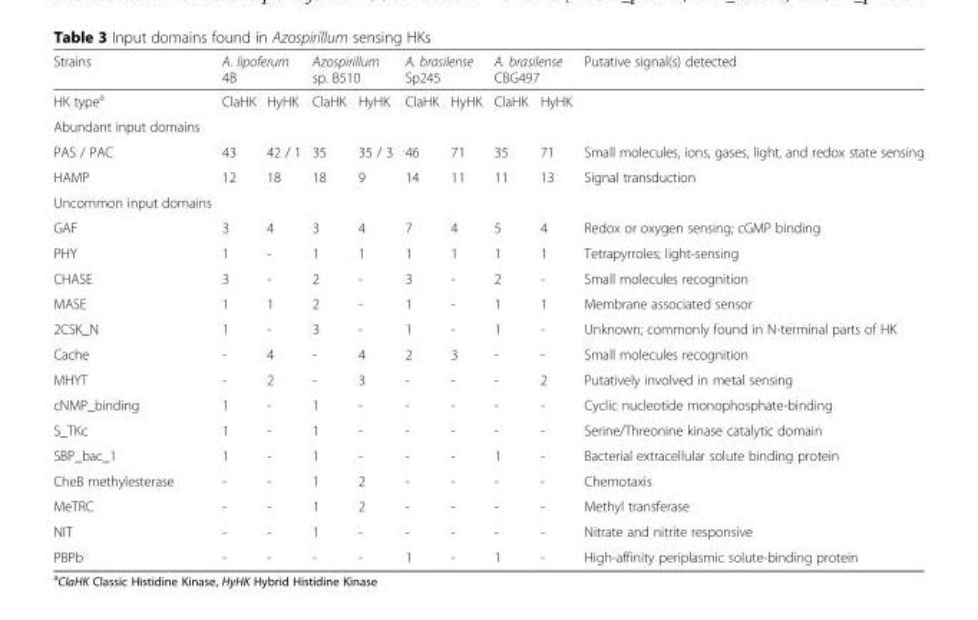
<table><thead><tr><td rowspan="2">Strains HK type<sup>a</sup></td><td colspan="2">A. lipoferum 4B</td><td colspan="2">Azospirillum sp. B510</td><td colspan="2">A. brasilense Sp245</td><td colspan="2">A. brasilense CBG497</td><td rowspan="2">Putative signal(s) detected</td></tr><tr><td>ClaHK</td><td>HyHK</td><td>ClaHK</td><td>HyHK</td><td>ClaHK</td><td>HyHK</td><td>ClaHK</td><td>HyHK</td></tr></thead><tbody><tr><td colspan="10">Abundant input domains</td></tr><tr><td>PAS / PAC</td><td>43</td><td>42 / 1</td><td>35</td><td>35 / 3</td><td>46</td><td>71</td><td>35</td><td>71</td><td>Small molecules, ions, gases, light, and redox state sensing</td></tr><tr><td>HAMP</td><td>12</td><td>18</td><td>18</td><td>9</td><td>14</td><td>11</td><td>11</td><td>13</td><td>Signal transduction</td></tr><tr><td colspan="10">Uncommon input domains</td></tr><tr><td>GAF</td><td>3</td><td>4</td><td>3</td><td>4</td><td>7</td><td>4</td><td>5</td><td>4</td><td>Redox or oxygen sensing; cGMP binding</td></tr><tr><td>PHY</td><td>1</td><td>-</td><td>1</td><td>1</td><td>1</td><td>1</td><td>1</td><td>1</td><td>Tetrapyrroles; light-sensing</td></tr><tr><td>CHASE</td><td>3</td><td>-</td><td>2</td><td>-</td><td>3</td><td>-</td><td>2</td><td>-</td><td>Small molecules recognition</td></tr><tr><td>MASE</td><td>1</td><td>1</td><td>2</td><td>-</td><td>1</td><td>-</td><td>1</td><td>1</td><td>Membrane associated sensor</td></tr><tr><td>2CSK_N</td><td>1</td><td>-</td><td>3</td><td>-</td><td>1</td><td>-</td><td>1</td><td>-</td><td>Unknown; commonly found in N-terminal parts of HK</td></tr><tr><td>Cache</td><td>-</td><td>4</td><td>-</td><td>4</td><td>2</td><td>3</td><td>-</td><td>-</td><td>Small molecules recognition</td></tr><tr><td>MHYT</td><td>-</td><td>2</td><td>-</td><td>3</td><td>-</td><td>-</td><td>-</td><td>2</td><td>Putatively involved in metal sensing</td></tr><tr><td>cNMP_binding</td><td>1</td><td>-</td><td>1</td><td>-</td><td>-</td><td>-</td><td>-</td><td>-</td><td>Cyclic nucleotide monophosphate-binding</td></tr><tr><td>S_TKc</td><td>1</td><td>-</td><td>1</td><td>-</td><td>-</td><td>-</td><td>-</td><td>-</td><td>Serine/Threonine kinase catalytic domain</td></tr><tr><td>SBP_bac_1</td><td>1</td><td>-</td><td>1</td><td>-</td><td>-</td><td>-</td><td>1</td><td>-</td><td>Bacterial extracellular solute binding protein</td></tr><tr><td>CheB methylesterase</td><td>-</td><td>-</td><td>1</td><td>2</td><td>-</td><td>-</td><td>-</td><td>-</td><td>Chemotaxis</td></tr><tr><td>MeTRC</td><td>-</td><td>-</td><td>1</td><td>2</td><td>-</td><td>-</td><td>-</td><td>-</td><td>Methyl transferase</td></tr><tr><td>NIT</td><td>-</td><td>-</td><td>1</td><td>-</td><td>-</td><td>-</td><td>-</td><td>-</td><td>Nitrate and nitrite responsive</td></tr><tr><td>PBPb</td><td>-</td><td>-</td><td>-</td><td>-</td><td>1</td><td>-</td><td>1</td><td>-</td><td>High-affinity periplasmic solute-binding protein</td></tr></tbody></table>